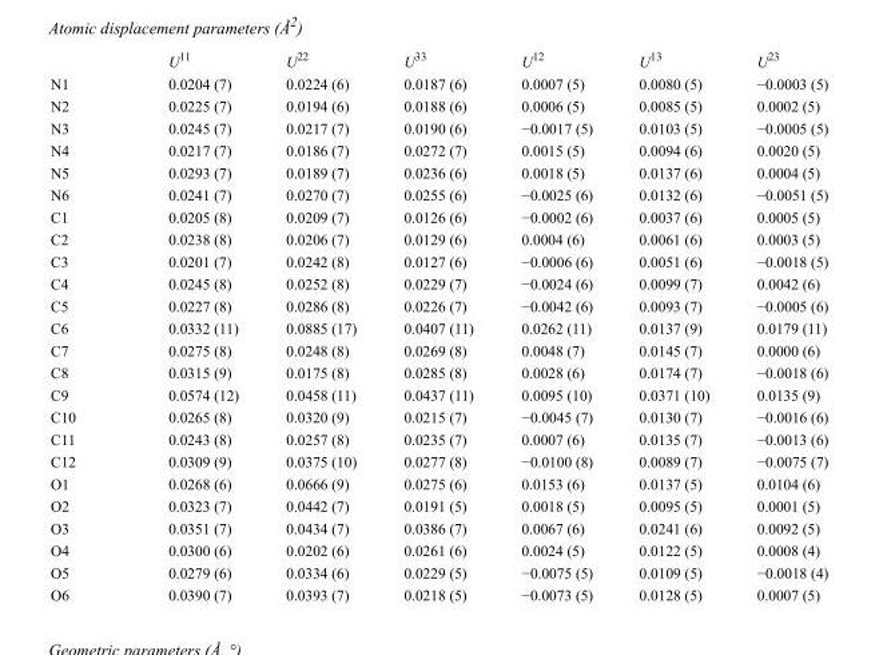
<table><thead><tr><td></td><td>U<sup>11</sup></td><td>U<sup>22</sup></td><td>U<sup>33</sup></td><td>U<sup>12</sup></td><td>U<sup>13</sup></td><td>U<sup>23</sup></td></tr></thead><tbody><tr><td>N1</td><td>0.0204 (7)</td><td>0.0224 (6)</td><td>0.0187 (6)</td><td>0.0007 (5)</td><td>0.0080 (5)</td><td>−0.0003 (5)</td></tr><tr><td>N2</td><td>0.0225 (7)</td><td>0.0194 (6)</td><td>0.0188 (6)</td><td>0.0006 (5)</td><td>0.0085 (5)</td><td>0.0002 (5)</td></tr><tr><td>N3</td><td>0.0245 (7)</td><td>0.0217 (7)</td><td>0.0190 (6)</td><td>−0.0017 (5)</td><td>0.0103 (5)</td><td>−0.0005 (5)</td></tr><tr><td>N4</td><td>0.0217 (7)</td><td>0.0186 (7)</td><td>0.0272 (7)</td><td>0.0015 (5)</td><td>0.0094 (6)</td><td>0.0020 (5)</td></tr><tr><td>N5</td><td>0.0293 (7)</td><td>0.0189 (7)</td><td>0.0236 (6)</td><td>0.0018 (5)</td><td>0.0137 (6)</td><td>0.0004 (5)</td></tr><tr><td>N6</td><td>0.0241 (7)</td><td>0.0270 (7)</td><td>0.0255 (6)</td><td>−0.0025 (6)</td><td>0.0132 (6)</td><td>−0.0051 (5)</td></tr><tr><td>C1</td><td>0.0205 (8)</td><td>0.0209 (7)</td><td>0.0126 (6)</td><td>−0.0002 (6)</td><td>0.0037 (6)</td><td>0.0005 (5)</td></tr><tr><td>C2</td><td>0.0238 (8)</td><td>0.0206 (7)</td><td>0.0129 (6)</td><td>0.0004 (6)</td><td>0.0061 (6)</td><td>0.0003 (5)</td></tr><tr><td>C3</td><td>0.0201 (7)</td><td>0.0242 (8)</td><td>0.0127 (6)</td><td>−0.0006 (6)</td><td>0.0051 (6)</td><td>−0.0018 (5)</td></tr><tr><td>C4</td><td>0.0245 (8)</td><td>0.0252 (8)</td><td>0.0229 (7)</td><td>−0.0024 (6)</td><td>0.0099 (7)</td><td>0.0042 (6)</td></tr><tr><td>C5</td><td>0.0227 (8)</td><td>0.0286 (8)</td><td>0.0226 (7)</td><td>−0.0042 (6)</td><td>0.0093 (7)</td><td>−0.0005 (6)</td></tr><tr><td>C6</td><td>0.0332 (11)</td><td>0.0885 (17)</td><td>0.0407 (11)</td><td>0.0262 (11)</td><td>0.0137 (9)</td><td>0.0179 (11)</td></tr><tr><td>C7</td><td>0.0275 (8)</td><td>0.0248 (8)</td><td>0.0269 (8)</td><td>0.0048 (7)</td><td>0.0145 (7)</td><td>0.0000 (6)</td></tr><tr><td>C8</td><td>0.0315 (9)</td><td>0.0175 (8)</td><td>0.0285 (8)</td><td>0.0028 (6)</td><td>0.0174 (7)</td><td>−0.0018 (6)</td></tr><tr><td>C9</td><td>0.0574 (12)</td><td>0.0458 (11)</td><td>0.0437 (11)</td><td>0.0095 (10)</td><td>0.0371 (10)</td><td>0.0135 (9)</td></tr><tr><td>C10</td><td>0.0265 (8)</td><td>0.0320 (9)</td><td>0.0215 (7)</td><td>−0.0045 (7)</td><td>0.0130 (7)</td><td>−0.0016 (6)</td></tr><tr><td>C11</td><td>0.0243 (8)</td><td>0.0257 (8)</td><td>0.0235 (7)</td><td>0.0007 (6)</td><td>0.0135 (7)</td><td>−0.0013 (6)</td></tr><tr><td>C12</td><td>0.0309 (9)</td><td>0.0375 (10)</td><td>0.0277 (8)</td><td>−0.0100 (8)</td><td>0.0089 (7)</td><td>−0.0075 (7)</td></tr><tr><td>O1</td><td>0.0268 (6)</td><td>0.0666 (9)</td><td>0.0275 (6)</td><td>0.0153 (6)</td><td>0.0137 (5)</td><td>0.0104 (6)</td></tr><tr><td>O2</td><td>0.0323 (7)</td><td>0.0442 (7)</td><td>0.0191 (5)</td><td>0.0018 (5)</td><td>0.0095 (5)</td><td>0.0001 (5)</td></tr><tr><td>O3</td><td>0.0351 (7)</td><td>0.0434 (7)</td><td>0.0386 (7)</td><td>0.0067 (6)</td><td>0.0241 (6)</td><td>0.0092 (5)</td></tr><tr><td>O4</td><td>0.0300 (6)</td><td>0.0202 (6)</td><td>0.0261 (6)</td><td>0.0024 (5)</td><td>0.0122 (5)</td><td>0.0008 (4)</td></tr><tr><td>O5</td><td>0.0279 (6)</td><td>0.0334 (6)</td><td>0.0229 (5)</td><td>−0.0075 (5)</td><td>0.0109 (5)</td><td>−0.0018 (4)</td></tr><tr><td>O6</td><td>0.0390 (7)</td><td>0.0393 (7)</td><td>0.0218 (5)</td><td>−0.0073 (5)</td><td>0.0128 (5)</td><td>0.0007 (5)</td></tr></tbody></table>